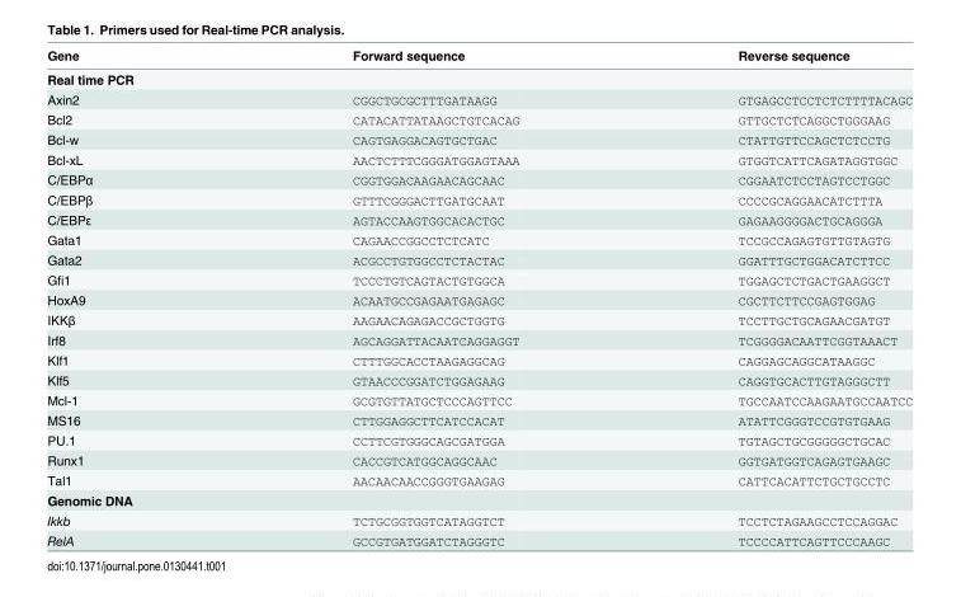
<table><thead><tr><td>Gene</td><td>Forward sequence</td><td>Reverse sequence</td></tr></thead><tbody><tr><td colspan="3">Real time PCR</td></tr><tr><td>Axin2</td><td>CGGCTGCGCTTTGATAAGG</td><td>GTGAGCCTCCTCTCTTTTACAGC</td></tr><tr><td>Bcl2</td><td>CATACATTATAAGCTGTCACAG</td><td>GTTGCTCTCAGGCTGGGAAG</td></tr><tr><td>Bcl-w</td><td>CAGTGAGGACAGTGCTGAC</td><td>CTATTGTTCCAGCTCTCCTG</td></tr><tr><td>Bcl-xL</td><td>AACTCTTTCGGGATGGAGTAAA</td><td>GTGGTCATTCAGATAGGTGGC</td></tr><tr><td>C/EBPα</td><td>CGGTGGACAAGAACAGCAAC</td><td>CGGAATCTCCTAGTCCTGGC</td></tr><tr><td>C/EBPβ</td><td>GTTTCGGGACTTGATGCAAT</td><td>CCCCGCAGGAACATCTTTA</td></tr><tr><td>C/EBPε</td><td>AGTACCAAGTGGCACACTGC</td><td>GAGAAGGGGACTGCAGGGA</td></tr><tr><td>Gata1</td><td>CAGAACCGGCCTCTCATC</td><td>TCCGCCAGAGTGTTGTAGTG</td></tr><tr><td>Gata2</td><td>ACGCCTGTGGCCTCTACTAC</td><td>GGATTTGCTGGACATCTTCC</td></tr><tr><td>Gfi1</td><td>TCCCTGTCAGTACTGTGGCA</td><td>TGGAGCTCTGACTGAAGGCT</td></tr><tr><td>HoxA9</td><td>ACAATGCCGAGAATGAGAGC</td><td>CGCTTCTTCCGAGTGGAG</td></tr><tr><td>IKKβ</td><td>AAGAACAGAGACCGCTGGTG</td><td>TCCTTGCTGCAGAACGATGT</td></tr><tr><td>Irf8</td><td>AGCAGGATTACAATCAGGAGGT</td><td>TCGGGGACAATTCGGTAAACT</td></tr><tr><td>Klf1</td><td>CTTTGGCACCTAAGAGGCAG</td><td>CAGGAGCAGGCATAAGGC</td></tr><tr><td>Klf5</td><td>GTAACCCGGATCTGGAGAAG</td><td>CAGGTGCACTTGTAGGGCTT</td></tr><tr><td>Mcl-1</td><td>GCGTGTTATGCTCCCAGTTCC</td><td>TGCCAATCCAAGAATGCCAATCC</td></tr><tr><td>MS16</td><td>CTTGGAGGCTTCATCCACAT</td><td>ATATTCGGGTCCGTGTGAAG</td></tr><tr><td>PU.1</td><td>CCTTCGTGGGCAGCGATGGA</td><td>TGTAGCTGCGGGGGCTGCAC</td></tr><tr><td>Runx1</td><td>CACCGTCATGGCAGGCAAC</td><td>GGTGATGGTCAGAGTGAAGC</td></tr><tr><td>Tal1</td><td>AACAACAACCGGGTGAAGAG</td><td>CATTCACATTCTGCTGCCTC</td></tr><tr><td colspan="3">Genomic DNA</td></tr><tr><td>Ikkb</td><td>TCTGCGGTGGTCATAGGTCT</td><td>TCCTCTAGAAGCCTCCAGGAC</td></tr><tr><td>RelA</td><td>GCCGTGATGGATCTAGGGTC</td><td>TCCCCATTCAGTTCCCAAGC</td></tr></tbody></table>